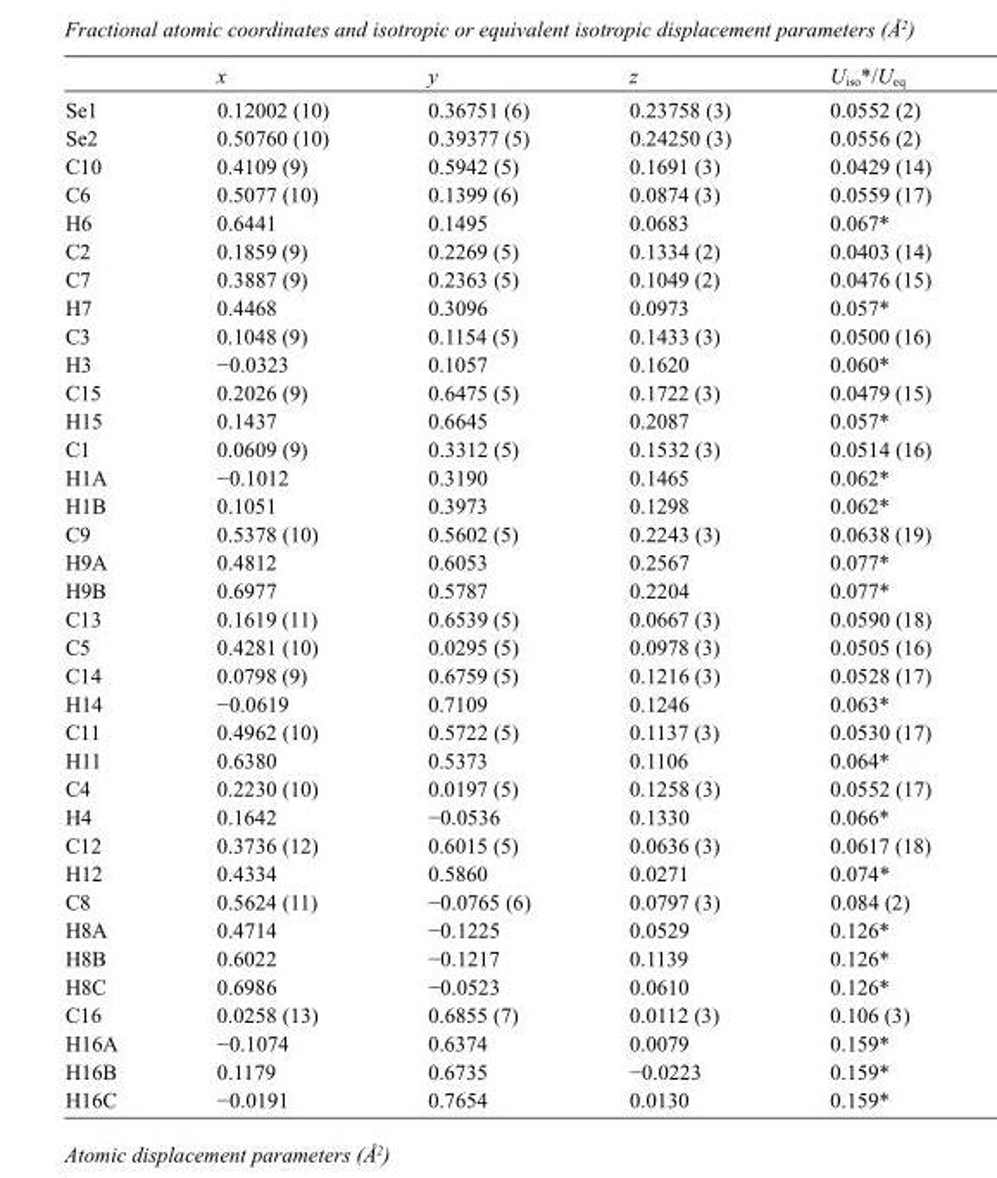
<table><thead><tr><td></td><td>x</td><td>y</td><td>z</td><td>U<sub>iso</sub>*/U<sub>eq</sub></td></tr></thead><tbody><tr><td>Se1</td><td>0.12002 (10)</td><td>0.36751 (6)</td><td>0.23758 (3)</td><td>0.0552 (2)</td></tr><tr><td>Se2</td><td>0.50760 (10)</td><td>0.39377 (5)</td><td>0.24250 (3)</td><td>0.0556 (2)</td></tr><tr><td>C10</td><td>0.4109 (9)</td><td>0.5942 (5)</td><td>0.1691 (3)</td><td>0.0429 (14)</td></tr><tr><td>C6</td><td>0.5077 (10)</td><td>0.1399 (6)</td><td>0.0874 (3)</td><td>0.0559 (17)</td></tr><tr><td>H6</td><td>0.6441</td><td>0.1495</td><td>0.0683</td><td>0.067*</td></tr><tr><td>C2</td><td>0.1859 (9)</td><td>0.2269 (5)</td><td>0.1334 (2)</td><td>0.0403 (14)</td></tr><tr><td>C7</td><td>0.3887 (9)</td><td>0.2363 (5)</td><td>0.1049 (2)</td><td>0.0476 (15)</td></tr><tr><td>H7</td><td>0.4468</td><td>0.3096</td><td>0.0973</td><td>0.057*</td></tr><tr><td>C3</td><td>0.1048 (9)</td><td>0.1154 (5)</td><td>0.1433 (3)</td><td>0.0500 (16)</td></tr><tr><td>H3</td><td>−0.0323</td><td>0.1057</td><td>0.1620</td><td>0.060*</td></tr><tr><td>C15</td><td>0.2026 (9)</td><td>0.6475 (5)</td><td>0.1722 (3)</td><td>0.0479 (15)</td></tr><tr><td>H15</td><td>0.1437</td><td>0.6645</td><td>0.2087</td><td>0.057*</td></tr><tr><td>C1</td><td>0.0609 (9)</td><td>0.3312 (5)</td><td>0.1532 (3)</td><td>0.0514 (16)</td></tr><tr><td>H1A</td><td>−0.1012</td><td>0.3190</td><td>0.1465</td><td>0.062*</td></tr><tr><td>H1B</td><td>0.1051</td><td>0.3973</td><td>0.1298</td><td>0.062*</td></tr><tr><td>C9</td><td>0.5378 (10)</td><td>0.5602 (5)</td><td>0.2243 (3)</td><td>0.0638 (19)</td></tr><tr><td>H9A</td><td>0.4812</td><td>0.6053</td><td>0.2567</td><td>0.077*</td></tr><tr><td>H9B</td><td>0.6977</td><td>0.5787</td><td>0.2204</td><td>0.077*</td></tr><tr><td>C13</td><td>0.1619 (11)</td><td>0.6539 (5)</td><td>0.0667 (3)</td><td>0.0590 (18)</td></tr><tr><td>C5</td><td>0.4281 (10)</td><td>0.0295 (5)</td><td>0.0978 (3)</td><td>0.0505 (16)</td></tr><tr><td>C14</td><td>0.0798 (9)</td><td>0.6759 (5)</td><td>0.1216 (3)</td><td>0.0528 (17)</td></tr><tr><td>H14</td><td>−0.0619</td><td>0.7109</td><td>0.1246</td><td>0.063*</td></tr><tr><td>C11</td><td>0.4962 (10)</td><td>0.5722 (5)</td><td>0.1137 (3)</td><td>0.0530 (17)</td></tr><tr><td>H11</td><td>0.6380</td><td>0.5373</td><td>0.1106</td><td>0.064*</td></tr><tr><td>C4</td><td>0.2230 (10)</td><td>0.0197 (5)</td><td>0.1258 (3)</td><td>0.0552 (17)</td></tr><tr><td>H4</td><td>0.1642</td><td>−0.0536</td><td>0.1330</td><td>0.066*</td></tr><tr><td>C12</td><td>0.3736 (12)</td><td>0.6015 (5)</td><td>0.0636 (3)</td><td>0.0617 (18)</td></tr><tr><td>H12</td><td>0.4334</td><td>0.5860</td><td>0.0271</td><td>0.074*</td></tr><tr><td>C8</td><td>0.5624 (11)</td><td>−0.0765 (6)</td><td>0.0797 (3)</td><td>0.084 (2)</td></tr><tr><td>H8A</td><td>0.4714</td><td>−0.1225</td><td>0.0529</td><td>0.126*</td></tr><tr><td>H8B</td><td>0.6022</td><td>−0.1217</td><td>0.1139</td><td>0.126*</td></tr><tr><td>H8C</td><td>0.6986</td><td>−0.0523</td><td>0.0610</td><td>0.126*</td></tr><tr><td>C16</td><td>0.0258 (13)</td><td>0.6855 (7)</td><td>0.0112 (3)</td><td>0.106 (3)</td></tr><tr><td>H16A</td><td>−0.1074</td><td>0.6374</td><td>0.0079</td><td>0.159*</td></tr><tr><td>H16B</td><td>0.1179</td><td>0.6735</td><td>−0.0223</td><td>0.159*</td></tr><tr><td>H16C</td><td>−0.0191</td><td>0.7654</td><td>0.0130</td><td>0.159*</td></tr></tbody></table>